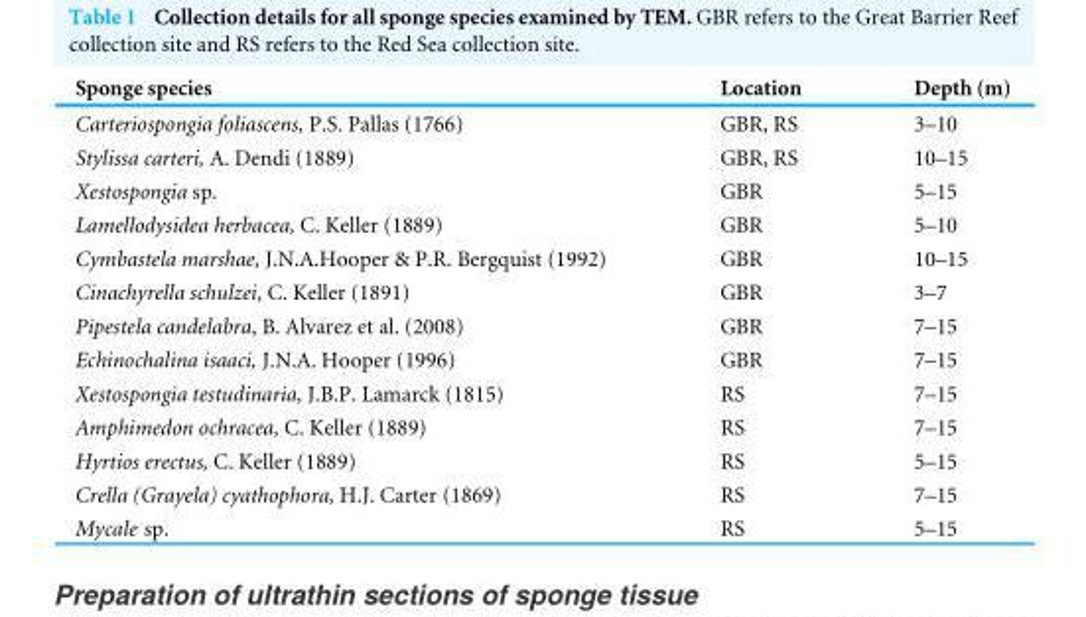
<table><thead><tr><td>Sponge species</td><td>Location</td><td>Depth (m)</td></tr></thead><tbody><tr><td>Carteriospongia foliascens, P.S. Pallas (1766)</td><td>GBR, RS</td><td>3–10</td></tr><tr><td>Stylissa carteri, A. Dendi (1889)</td><td>GBR, RS</td><td>10–15</td></tr><tr><td>Xestospongia sp.</td><td>GBR</td><td>5–15</td></tr><tr><td>Lamellodysidea herbacea, C. Keller (1889)</td><td>GBR</td><td>5–10</td></tr><tr><td>Cymbastela marshae, J.N.A.Hooper &amp; P.R. Bergquist (1992)</td><td>GBR</td><td>10–15</td></tr><tr><td>Cinachyrella schulzei, C. Keller (1891)</td><td>GBR</td><td>3–7</td></tr><tr><td>Pipestela candelabra, B. Alvarez et al. (2008)</td><td>GBR</td><td>7–15</td></tr><tr><td>Echinochalina isaaci, J.N.A. Hooper (1996)</td><td>GBR</td><td>7–15</td></tr><tr><td>Xestospongia testudinaria, J.B.P. Lamarck (1815)</td><td>RS</td><td>7–15</td></tr><tr><td>Amphimedon ochracea, C. Keller (1889)</td><td>RS</td><td>7–15</td></tr><tr><td>Hyrtios erectus, C. Keller (1889)</td><td>RS</td><td>5–15</td></tr><tr><td>Crella (Grayela) cyathophora, H.J. Carter (1869)</td><td>RS</td><td>7–15</td></tr><tr><td>Mycale sp.</td><td>RS</td><td>5–15</td></tr></tbody></table>